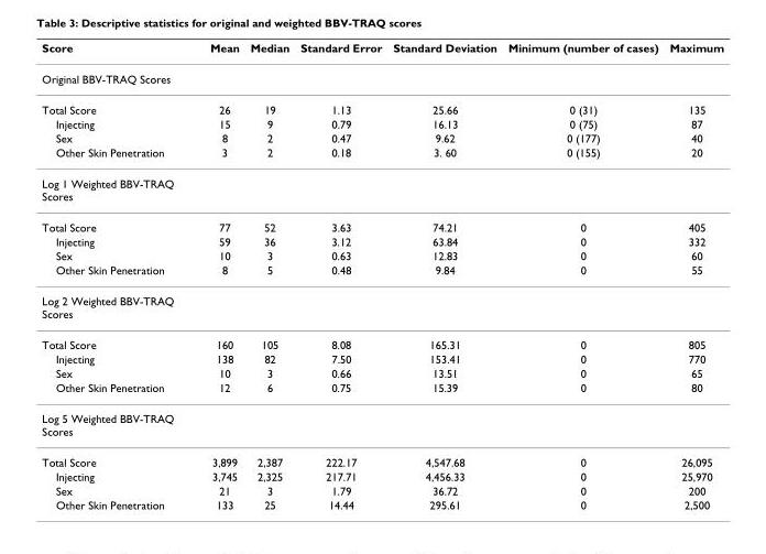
<table><thead><tr><td>Score</td><td>Mean</td><td>Median</td><td>Standard Error</td><td>Standard Deviation</td><td>Minimum (number of cases)</td><td>Maximum</td></tr></thead><tbody><tr><td colspan="7">Original BBV-TRAQ Scores</td></tr><tr><td>Total Score</td><td>26</td><td>19</td><td>1.13</td><td>25.66</td><td>0 (31)</td><td>135</td></tr><tr><td>Injecting</td><td>15</td><td>9</td><td>0.79</td><td>16.13</td><td>0 (75)</td><td>87</td></tr><tr><td>Sex</td><td>8</td><td>2</td><td>0.47</td><td>9.62</td><td>0 (177)</td><td>40</td></tr><tr><td>Other Skin Penetration</td><td>3</td><td>2</td><td>0.18</td><td>3. 60</td><td>0 (155)</td><td>20</td></tr><tr><td colspan="7">Log 1 Weighted BBV-TRAQ Scores</td></tr><tr><td>Total Score</td><td>77</td><td>52</td><td>3.63</td><td>74.21</td><td>0</td><td>405</td></tr><tr><td>Injecting</td><td>59</td><td>36</td><td>3.12</td><td>63.84</td><td>0</td><td>332</td></tr><tr><td>Sex</td><td>10</td><td>3</td><td>0.63</td><td>12.83</td><td>0</td><td>60</td></tr><tr><td>Other Skin Penetration</td><td>8</td><td>5</td><td>0.48</td><td>9.84</td><td>0</td><td>55</td></tr><tr><td colspan="7">Log 2 Weighted BBV-TRAQ Scores</td></tr><tr><td>Total Score</td><td>160</td><td>105</td><td>8.08</td><td>165.31</td><td>0</td><td>805</td></tr><tr><td>Injecting</td><td>138</td><td>82</td><td>7.50</td><td>153.41</td><td>0</td><td>770</td></tr><tr><td>Sex</td><td>10</td><td>3</td><td>0.66</td><td>13.51</td><td>0</td><td>65</td></tr><tr><td>Other Skin Penetration</td><td>12</td><td>6</td><td>0.75</td><td>15.39</td><td>0</td><td>80</td></tr><tr><td colspan="7">Log 5 Weighted BBV-TRAQ Scores</td></tr><tr><td>Total Score</td><td>3,899</td><td>2,387</td><td>222.17</td><td>4,547.68</td><td>0</td><td>26,095</td></tr><tr><td>Injecting</td><td>3,745</td><td>2,325</td><td>217.71</td><td>4,456.33</td><td>0</td><td>25,970</td></tr><tr><td>Sex</td><td>21</td><td>3</td><td>1.79</td><td>36.72</td><td>0</td><td>200</td></tr><tr><td>Other Skin Penetration</td><td>133</td><td>25</td><td>14.44</td><td>295.61</td><td>0</td><td>2,500</td></tr></tbody></table>